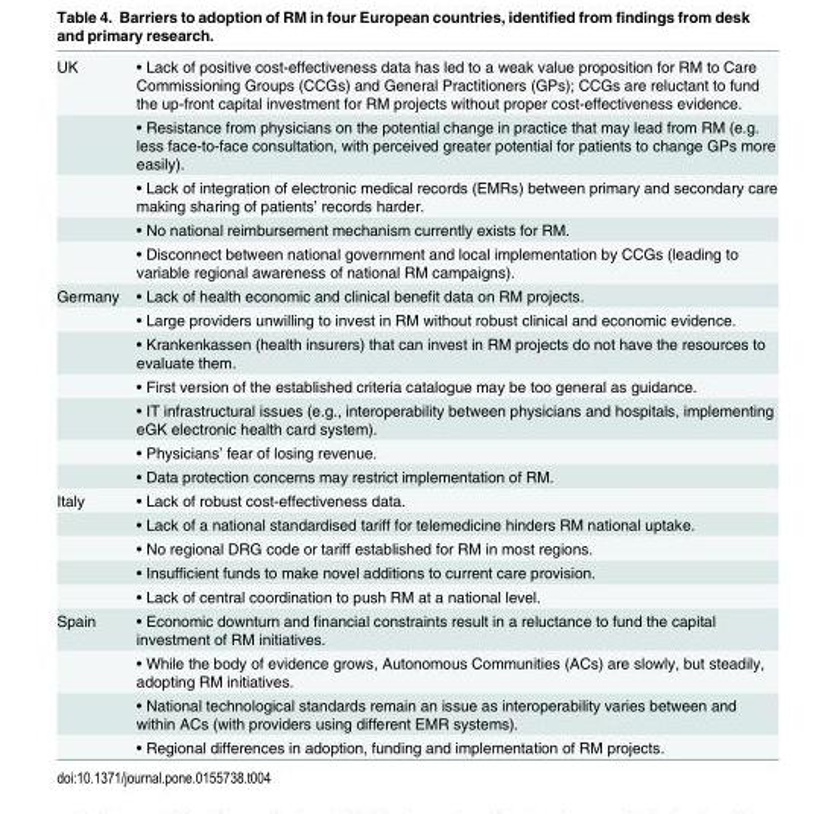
<table><tbody><tr><td rowspan="5">UK</td><td>• Lack of positive cost-effectiveness data has led to a weak value proposition for RM to Care Commissioning Groups (CCGs) and General Practitioners (GPs); CCGs are reluctant to fund the up-front capital investment for RM projects without proper cost-effectiveness evidence.</td></tr><tr><td>• Resistance from physicians on the potential change in practice that may lead from RM (e.g. less face-to-face consultation, with perceived greater potential for patients to change GPs more easily).</td></tr><tr><td>• Lack of integration of electronic medical records (EMRs) between primary and secondary care making sharing of patients’ records harder.</td></tr><tr><td>• No national reimbursement mechanism currently exists for RM.</td></tr><tr><td>• Disconnect between national government and local implementation by CCGs (leading to variable regional awareness of national RM campaigns).</td></tr><tr><td rowspan="7">Germany</td><td>• Lack of health economic and clinical benefit data on RM projects.</td></tr><tr><td>• Large providers unwilling to invest in RM without robust clinical and economic evidence.</td></tr><tr><td>• Krankenkassen (health insurers) that can invest in RM projects do not have the resources to evaluate them.</td></tr><tr><td>• First version of the established criteria catalogue may be too general as guidance.</td></tr><tr><td>• IT infrastructural issues (e.g., interoperability between physicians and hospitals, implementing eGK electronic health card system).</td></tr><tr><td>• Physicians’ fear of losing revenue.</td></tr><tr><td>• Data protection concerns may restrict implementation of RM.</td></tr><tr><td rowspan="5">Italy</td><td>• Lack of robust cost-effectiveness data.</td></tr><tr><td>• Lack of a national standardised tariff for telemedicine hinders RM national uptake.</td></tr><tr><td>• No regional DRG code or tariff established for RM in most regions.</td></tr><tr><td>• Insufficient funds to make novel additions to current care provision.</td></tr><tr><td>• Lack of central coordination to push RM at a national level.</td></tr><tr><td rowspan="4">Spain</td><td>• Economic downturn and financial constraints result in a reluctance to fund the capital investment of RM initiatives.</td></tr><tr><td>• While the body of evidence grows, Autonomous Communities (ACs) are slowly, but steadily, adopting RM initiatives.</td></tr><tr><td>• National technological standards remain an issue as interoperability varies between and within ACs (with providers using different EMR systems).</td></tr><tr><td>• Regional differences in adoption, funding and implementation of RM projects.</td></tr></tbody></table>